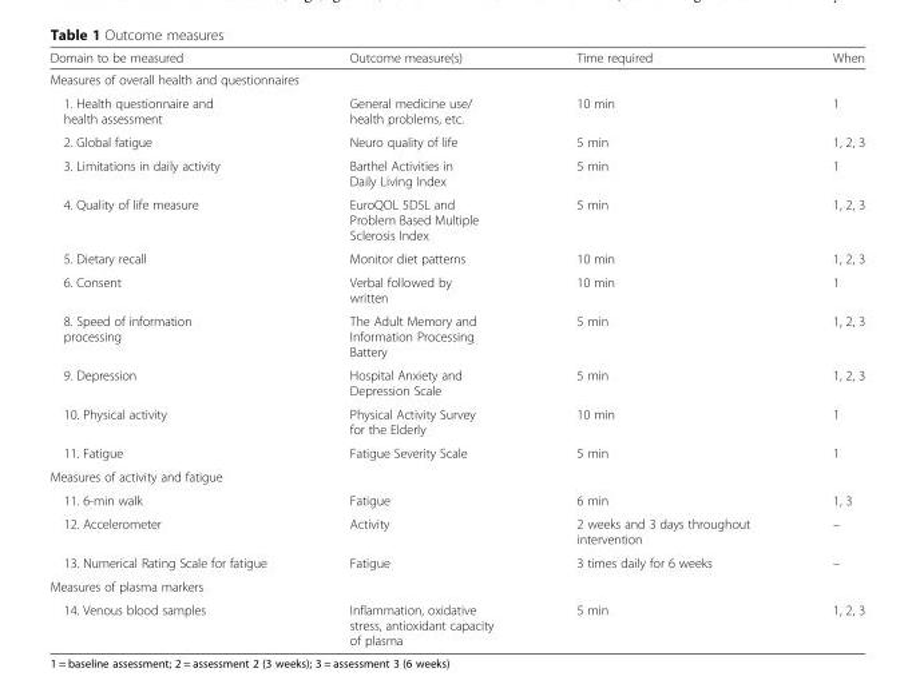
<table><thead><tr><td>Domain to be measured</td><td>Outcome measure(s)</td><td>Time required</td><td>When</td></tr></thead><tbody><tr><td colspan="4">Measures of overall health and questionnaires</td></tr><tr><td>1. Health questionnaire and health assessment</td><td>General medicine use/ health problems, etc.</td><td>10 min</td><td>1</td></tr><tr><td>2. Global fatigue</td><td>Neuro quality of life</td><td>5 min</td><td>1, 2, 3</td></tr><tr><td>3. Limitations in daily activity</td><td>Barthel Activities in Daily Living Index</td><td>5 min</td><td>1</td></tr><tr><td>4. Quality of life measure</td><td>EuroQOL 5D5L and Problem Based Multiple Sclerosis Index</td><td>5 min</td><td>1, 2, 3</td></tr><tr><td>5. Dietary recall</td><td>Monitor diet patterns</td><td>10 min</td><td>1, 2, 3</td></tr><tr><td>6. Consent</td><td>Verbal followed by written</td><td>10 min</td><td>1</td></tr><tr><td>8. Speed of information processing</td><td>The Adult Memory and Information Processing Battery</td><td>5 min</td><td>1, 2, 3</td></tr><tr><td>9. Depression</td><td>Hospital Anxiety and Depression Scale</td><td>5 min</td><td>1, 2, 3</td></tr><tr><td>10. Physical activity</td><td>Physical Activity Survey for the Elderly</td><td>10 min</td><td>1</td></tr><tr><td>11. Fatigue</td><td>Fatigue Severity Scale</td><td>5 min</td><td>1</td></tr><tr><td colspan="4">Measures of activity and fatigue</td></tr><tr><td>11. 6-min walk</td><td>Fatigue</td><td>6 min</td><td>1, 3</td></tr><tr><td>12. Accelerometer</td><td>Activity</td><td>2 weeks and 3 days throughout intervention</td><td>–</td></tr><tr><td>13. Numerical Rating Scale for fatigue</td><td>Fatigue</td><td>3 times daily for 6 weeks</td><td>–</td></tr><tr><td colspan="4">Measures of plasma markers</td></tr><tr><td>14. Venous blood samples</td><td>Inflammation, oxidative stress, antioxidant capacity of plasma</td><td>5 min</td><td>1, 2, 3</td></tr></tbody></table>